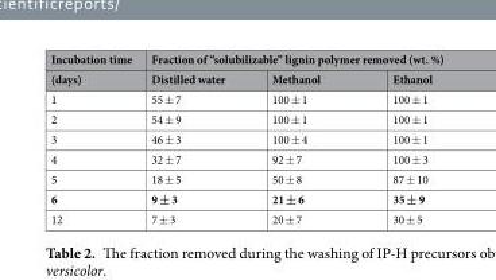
<table><thead><tr><td rowspan="2">Incubation time (days)</td><td colspan="3">Fraction of “solubilizable” lignin polymer removed (wt. %)</td></tr><tr><td>Distilled water</td><td>Methanol</td><td>Ethanol</td></tr></thead><tbody><tr><td>1</td><td>55 ± 7</td><td>100 ± 1</td><td>100 ± 1</td></tr><tr><td>2</td><td>54 ± 9</td><td>100 ± 1</td><td>100 ± 1</td></tr><tr><td>3</td><td>46 ± 3</td><td>100 ± 4</td><td>100 ± 1</td></tr><tr><td>4</td><td>32 ± 7</td><td>92 ± 7</td><td>100 ± 3</td></tr><tr><td>5</td><td>18 ± 5</td><td>50 ± 8</td><td>87 ± 10</td></tr><tr><td>6</td><td>9 ± 3</td><td>21 ± 6</td><td>35 ± 9</td></tr><tr><td>12</td><td>7 ± 3</td><td>20 ± 7</td><td>30 ± 5</td></tr></tbody></table>